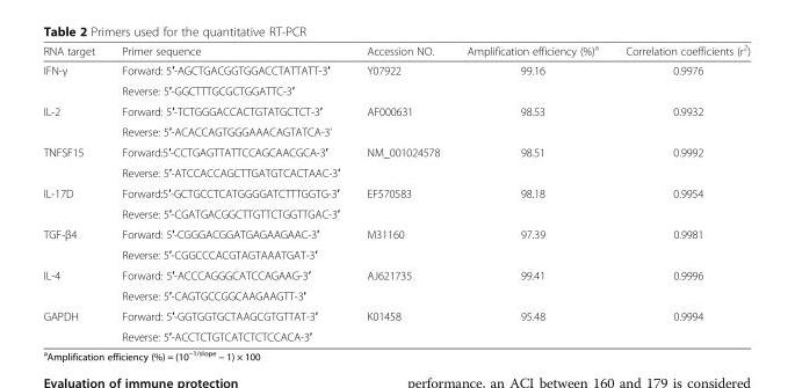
<table><thead><tr><td>RNA target</td><td>Primer sequence</td><td>Accession NO.</td><td>Amplification efficiency (%)<sup>a</sup></td><td>Correlation coefficients (r<sup>2</sup>)</td></tr></thead><tbody><tr><td rowspan="2">IFN-γ</td><td>Forward: 5′-AGCTGACGGTGGACCTATTATT-3′</td><td rowspan="2">Y07922</td><td rowspan="2">99.16</td><td rowspan="2">0.9976</td></tr><tr><td>Reverse: 5′-GGCTTTGCGCTGGATTC-3′</td></tr><tr><td rowspan="2">IL-2</td><td>Forward: 5′-TCTGGGACCACTGTATGCTCT-3′</td><td rowspan="2">AF000631</td><td rowspan="2">98.53</td><td rowspan="2">0.9932</td></tr><tr><td>Reverse: 5′-ACACCAGTGGGAAACAGTATCA-3’</td></tr><tr><td rowspan="2">TNFSF15</td><td>Forward:5′-CCTGAGTTATTCCAGCAACGCA-3′</td><td rowspan="2">NM_001024578</td><td rowspan="2">98.51</td><td rowspan="2">0.9992</td></tr><tr><td>Reverse: 5′-ATCCACCAGCTTGATGTCACTAAC-3′</td></tr><tr><td rowspan="2">IL-17D</td><td>Forward:5′-GCTGCCTCATGGGGATCTTTGGTG-3′</td><td rowspan="2">EF570583</td><td rowspan="2">98.18</td><td rowspan="2">0.9954</td></tr><tr><td>Reverse: 5′-CGATGACGGCTTGTTCTGGTTGAC-3′</td></tr><tr><td rowspan="2">TGF-β4</td><td>Forward: 5′-CGGGACGGATGAGAAGAAC-3′</td><td rowspan="2">M31160</td><td rowspan="2">97.39</td><td rowspan="2">0.9981</td></tr><tr><td>Reverse: 5′-CGGCCCACGTAGTAAATGAT-3′</td></tr><tr><td rowspan="2">IL-4</td><td>Forward: 5′-ACCCAGGGCATCCAGAAG-3′</td><td rowspan="2">AJ621735</td><td rowspan="2">99.41</td><td rowspan="2">0.9996</td></tr><tr><td>Reverse: 5′-CAGTGCCGGCAAGAAGTT-3′</td></tr><tr><td rowspan="2">GAPDH</td><td>Forward: 5′-GGTGGTGCTAAGCGTGTTAT-3′</td><td rowspan="2">K01458</td><td rowspan="2">95.48</td><td rowspan="2">0.9994</td></tr><tr><td>Reverse: 5′-ACCTCTGTCATCTCTCCACA-3′</td></tr></tbody></table>